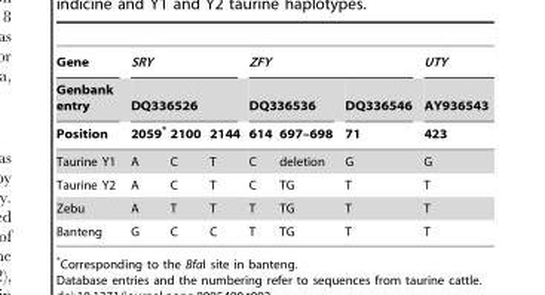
<table><thead><tr><td rowspan="3">Gene Genbank entry Position</td><td rowspan="2" colspan="3">SRY DQ336526</td><td colspan="3">ZFY</td><td rowspan="3">UTY AY936543 423</td></tr><tr><td colspan="2">DQ336536</td><td rowspan="2">DQ336546 71</td></tr><tr><td>2059*</td><td>2100</td><td>2144</td><td>614</td><td>697–698</td></tr></thead><tbody><tr><td>Taurine Y1</td><td>A</td><td>C</td><td>T</td><td>C</td><td>deletion</td><td>G</td><td>G</td></tr><tr><td>Taurine Y2</td><td>A</td><td>C</td><td>T</td><td>C</td><td>TG</td><td>T</td><td>T</td></tr><tr><td>Zebu</td><td>A</td><td>T</td><td>T</td><td>T</td><td>TG</td><td>T</td><td>T</td></tr><tr><td>Banteng</td><td>G</td><td>C</td><td>C</td><td>T</td><td>TG</td><td>T</td><td>T</td></tr></tbody></table>